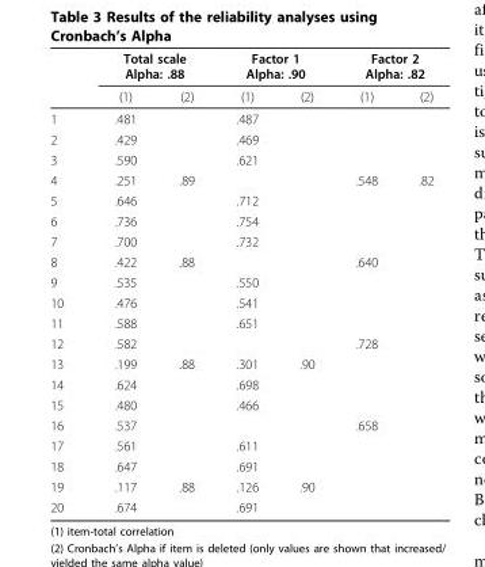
<table><thead><tr><td rowspan="2"></td><td colspan="2">Total scale Alpha: .88</td><td colspan="2">Factor 1 Alpha: .90</td><td colspan="2">Factor 2 Alpha: .82</td></tr><tr><td>(1)</td><td>(2)</td><td>(1)</td><td>(2)</td><td>(1)</td><td>(2)</td></tr></thead><tbody><tr><td>1</td><td>.481</td><td></td><td>.487</td><td></td><td></td><td></td></tr><tr><td>2</td><td>.429</td><td></td><td>.469</td><td></td><td></td><td></td></tr><tr><td>3</td><td>.590</td><td></td><td>.621</td><td></td><td></td><td></td></tr><tr><td>4</td><td>.251</td><td>.89</td><td></td><td></td><td>.548</td><td>.82</td></tr><tr><td>5</td><td>.646</td><td></td><td>.712</td><td></td><td></td><td></td></tr><tr><td>6</td><td>.736</td><td></td><td>.754</td><td></td><td></td><td></td></tr><tr><td>7</td><td>.700</td><td></td><td>.732</td><td></td><td></td><td></td></tr><tr><td>8</td><td>.422</td><td>.88</td><td></td><td></td><td>.640</td><td></td></tr><tr><td>9</td><td>.535</td><td></td><td>.550</td><td></td><td></td><td></td></tr><tr><td>10</td><td>.476</td><td></td><td>.541</td><td></td><td></td><td></td></tr><tr><td>11</td><td>.588</td><td></td><td>.651</td><td></td><td></td><td></td></tr><tr><td>12</td><td>.582</td><td></td><td></td><td></td><td>.728</td><td></td></tr><tr><td>13</td><td>.199</td><td>.88</td><td>.301</td><td>.90</td><td></td><td></td></tr><tr><td>14</td><td>.624</td><td></td><td>.698</td><td></td><td></td><td></td></tr><tr><td>15</td><td>.480</td><td></td><td>.466</td><td></td><td></td><td></td></tr><tr><td>16</td><td>.537</td><td></td><td></td><td></td><td>.658</td><td></td></tr><tr><td>17</td><td>.561</td><td></td><td>.611</td><td></td><td></td><td></td></tr><tr><td>18</td><td>.647</td><td></td><td>.691</td><td></td><td></td><td></td></tr><tr><td>19</td><td>.117</td><td>.88</td><td>.126</td><td>.90</td><td></td><td></td></tr><tr><td>20</td><td>.674</td><td></td><td>.691</td><td></td><td></td><td></td></tr></tbody></table>